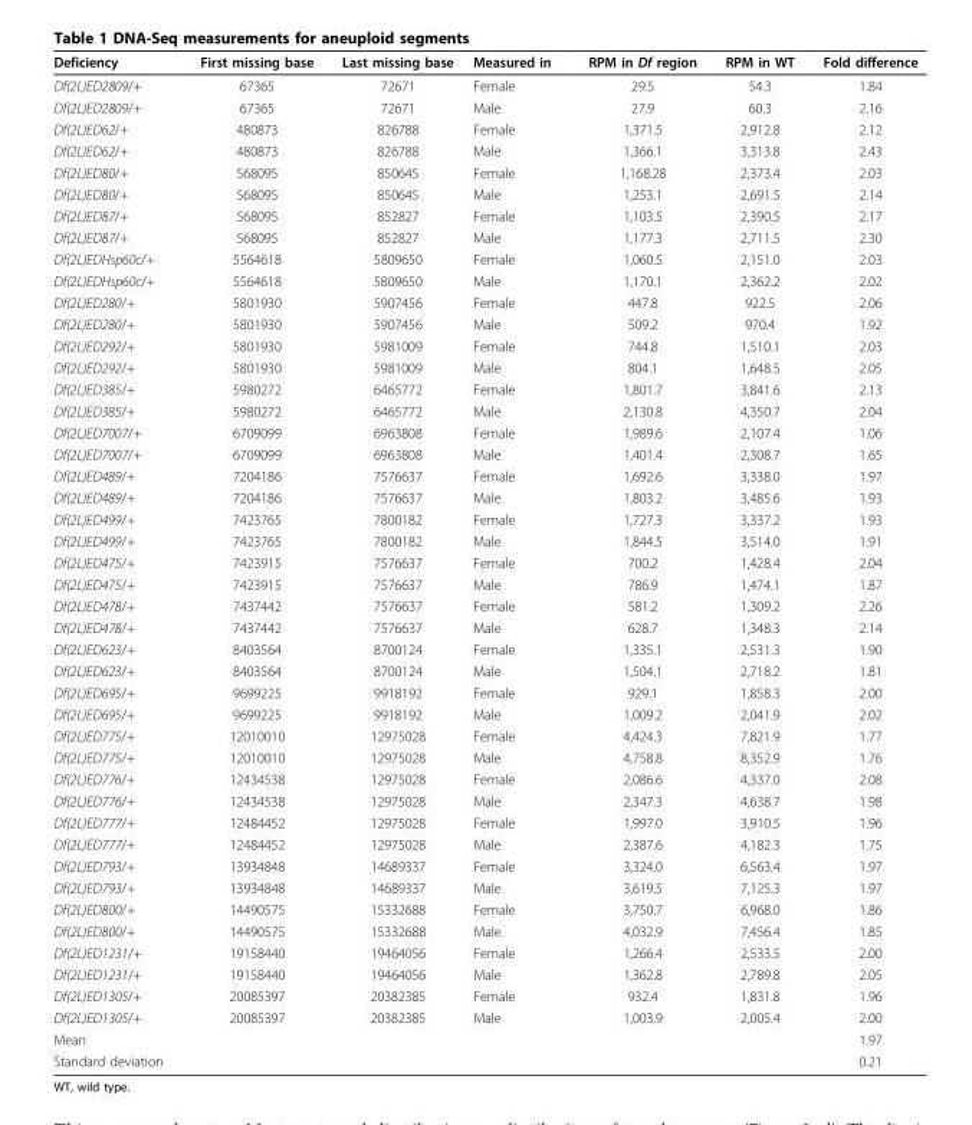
<table><thead><tr><td>Deficiency</td><td>First missing base</td><td>Last missing base</td><td>Measured in</td><td>RPM in Df region</td><td>RPM in WT</td><td>Fold difference</td></tr></thead><tbody><tr><td>Df(2L)ED2809/+</td><td>67365</td><td>72671</td><td>Female</td><td>29.5</td><td>54.3</td><td>1.84</td></tr><tr><td>Df(2L)ED2809/+</td><td>67365</td><td>72671</td><td>Male</td><td>27.9</td><td>60.3</td><td>2.16</td></tr><tr><td>Df(2L)ED62/+</td><td>480873</td><td>826788</td><td>Female</td><td>1,371.5</td><td>2,912.8</td><td>2.12</td></tr><tr><td>Df(2L)ED62/+</td><td>480873</td><td>826788</td><td>Male</td><td>1,366.1</td><td>3,313.8</td><td>2.43</td></tr><tr><td>Df(2L)ED80/+</td><td>568095</td><td>850645</td><td>Female</td><td>1,168.28</td><td>2,373.4</td><td>2.03</td></tr><tr><td>Df(2L)ED80/+</td><td>568095</td><td>850645</td><td>Male</td><td>1,253.1</td><td>2,691.5</td><td>2.14</td></tr><tr><td>Df(2L)ED87/+</td><td>568095</td><td>852827</td><td>Female</td><td>1,103.5</td><td>2,390.5</td><td>2.17</td></tr><tr><td>Df(2L)ED87/+</td><td>568095</td><td>852827</td><td>Male</td><td>1,177.3</td><td>2,711.5</td><td>2.30</td></tr><tr><td>Df(2L)EDHsp60c/+</td><td>5564618</td><td>5809650</td><td>Female</td><td>1,060.5</td><td>2,151.0</td><td>2.03</td></tr><tr><td>Df(2L)EDHsp60c/+</td><td>5564618</td><td>5809650</td><td>Male</td><td>1,170.1</td><td>2,362.2</td><td>2.02</td></tr><tr><td>Df(2L)ED280/+</td><td>5801930</td><td>5907456</td><td>Female</td><td>447.8</td><td>922.5</td><td>2.06</td></tr><tr><td>Df(2L)ED280/+</td><td>5801930</td><td>5907456</td><td>Male</td><td>509.2</td><td>970.4</td><td>1.92</td></tr><tr><td>Df(2L)ED292/+</td><td>5801930</td><td>5981009</td><td>Female</td><td>744.8</td><td>1,510.1</td><td>2.03</td></tr><tr><td>Df(2L)ED292/+</td><td>5801930</td><td>5981009</td><td>Male</td><td>804.1</td><td>1,648.5</td><td>2.05</td></tr><tr><td>Df(2L)ED385/+</td><td>5980272</td><td>6465772</td><td>Female</td><td>1,801.7</td><td>3,841.6</td><td>2.13</td></tr><tr><td>Df(2L)ED385/+</td><td>5980272</td><td>6465772</td><td>Male</td><td>2,130.8</td><td>4,350.7</td><td>2.04</td></tr><tr><td>Df(2L)ED7007/+</td><td>6709099</td><td>6963808</td><td>Female</td><td>1,989.6</td><td>2,107.4</td><td>1.06</td></tr><tr><td>Df(2L)ED7007/+</td><td>6709099</td><td>6963808</td><td>Male</td><td>1,401.4</td><td>2,308.7</td><td>1.65</td></tr><tr><td>Df(2L)ED489/+</td><td>7204186</td><td>7576637</td><td>Female</td><td>1,692.6</td><td>3,338.0</td><td>1.97</td></tr><tr><td>Df(2L)ED489/+</td><td>7204186</td><td>7576637</td><td>Male</td><td>1,803.2</td><td>3,485.6</td><td>1.93</td></tr><tr><td>Df(2L)ED499/+</td><td>7423765</td><td>7800182</td><td>Female</td><td>1,727.3</td><td>3,337.2</td><td>1.93</td></tr><tr><td>Df(2L)ED499/+</td><td>7423765</td><td>7800182</td><td>Male</td><td>1,844.5</td><td>3,514.0</td><td>1.91</td></tr><tr><td>Df(2L)ED475/+</td><td>7423915</td><td>7576637</td><td>Female</td><td>700.2</td><td>1,428.4</td><td>2.04</td></tr><tr><td>Df(2L)ED475/+</td><td>7423915</td><td>7576637</td><td>Male</td><td>786.9</td><td>1,474.1</td><td>1.87</td></tr><tr><td>Df(2L)ED478/+</td><td>7437442</td><td>7576637</td><td>Female</td><td>581.2</td><td>1,309.2</td><td>2.26</td></tr><tr><td>Df(2L)ED478/+</td><td>7437442</td><td>7576637</td><td>Male</td><td>628.7</td><td>1,348.3</td><td>2.14</td></tr><tr><td>Df(2L)ED623/+</td><td>8403564</td><td>8700124</td><td>Female</td><td>1,335.1</td><td>2,531.3</td><td>1.90</td></tr><tr><td>Df(2L)ED623/+</td><td>8403564</td><td>8700124</td><td>Male</td><td>1,504.1</td><td>2,718.2</td><td>1.81</td></tr><tr><td>Df(2L)ED695/+</td><td>9699225</td><td>9918192</td><td>Female</td><td>929.1</td><td>1,858.3</td><td>2.00</td></tr><tr><td>Df(2L)ED695/+</td><td>9699225</td><td>9918192</td><td>Male</td><td>1,009.2</td><td>2,041.9</td><td>2.02</td></tr><tr><td>Df(2L)ED775/+</td><td>12010010</td><td>12975028</td><td>Female</td><td>4,424.3</td><td>7,821.9</td><td>1.77</td></tr><tr><td>Df(2L)ED775/+</td><td>12010010</td><td>12975028</td><td>Male</td><td>4,758.8</td><td>8,352.9</td><td>1.76</td></tr><tr><td>Df(2L)ED776/+</td><td>12434538</td><td>12975028</td><td>Female</td><td>2,086.6</td><td>4,337.0</td><td>2.08</td></tr><tr><td>Df(2L)ED776/+</td><td>12434538</td><td>12975028</td><td>Male</td><td>2,347.3</td><td>4,638.7</td><td>1.98</td></tr><tr><td>Df(2L)ED777/+</td><td>12484452</td><td>12975028</td><td>Female</td><td>1,997.0</td><td>3,910.5</td><td>1.96</td></tr><tr><td>Df(2L)ED777/+</td><td>12484452</td><td>12975028</td><td>Male</td><td>2,387.6</td><td>4,182.3</td><td>1.75</td></tr><tr><td>Df(2L)ED793/+</td><td>13934848</td><td>14689337</td><td>Female</td><td>3,324.0</td><td>6,563.4</td><td>1.97</td></tr><tr><td>Df(2L)ED793/+</td><td>13934848</td><td>14689337</td><td>Male</td><td>3,619.5</td><td>7,125.3</td><td>1.97</td></tr><tr><td>Df(2L)ED800/+</td><td>14490575</td><td>15332688</td><td>Female</td><td>3,750.7</td><td>6,968.0</td><td>1.86</td></tr><tr><td>Df(2L)ED800/+</td><td>14490575</td><td>15332688</td><td>Male</td><td>4,032.9</td><td>7,456.4</td><td>1.85</td></tr><tr><td>Df(2L)ED1231/+</td><td>19158440</td><td>19464056</td><td>Female</td><td>1,266.4</td><td>2,533.5</td><td>2.00</td></tr><tr><td>Df(2L)ED1231/+</td><td>19158440</td><td>19464056</td><td>Male</td><td>1,362.8</td><td>2,789.8</td><td>2.05</td></tr><tr><td>Df(2L)ED1305/+</td><td>20085397</td><td>20382385</td><td>Female</td><td>932.4</td><td>1,831.8</td><td>1.96</td></tr><tr><td>Df(2L)ED1305/+</td><td>20085397</td><td>20382385</td><td>Male</td><td>1,003.9</td><td>2,005.4</td><td>2.00</td></tr><tr><td>Mean</td><td></td><td></td><td></td><td></td><td></td><td>1.97</td></tr><tr><td>Standard deviation</td><td></td><td></td><td></td><td></td><td></td><td>0.21</td></tr></tbody></table>